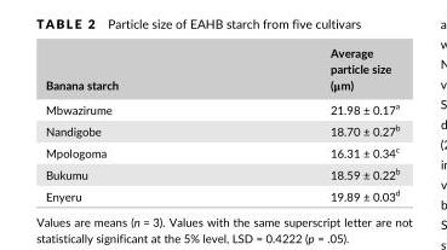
<table><thead><tr><td>Banana starch</td><td>Average particle size (μm)</td></tr></thead><tbody><tr><td>Mbwazirume</td><td>21.98 ± 0.17<sup>a</sup></td></tr><tr><td>Nandigobe</td><td>18.70 ± 0.27<sup>b</sup></td></tr><tr><td>Mpologoma</td><td>16.31 ± 0.34<sup>c</sup></td></tr><tr><td>Bukumu</td><td>18.59 ± 0.22<sup>b</sup></td></tr><tr><td>Enyeru</td><td>19.89 ± 0.03<sup>d</sup></td></tr></tbody></table>